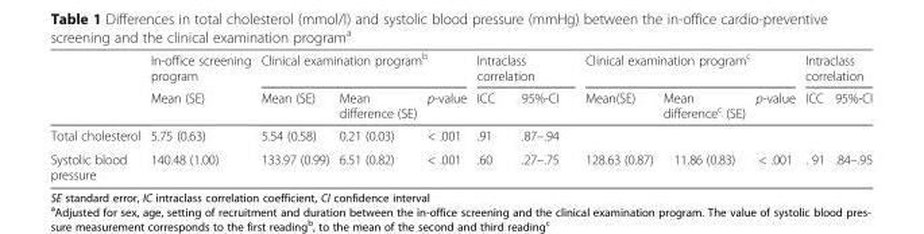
<table><thead><tr><td rowspan="2"></td><td rowspan="2">In-office screening program Mean (SE)</td><td colspan="3">Clinical examination program<sup>b</sup></td><td colspan="2">Intraclass correlation</td><td colspan="3">Clinical examination program<sup>c</sup></td><td colspan="2">Intraclass correlation</td></tr><tr><td>Mean (SE)</td><td>Mean difference (SE)</td><td>p-value</td><td>ICC</td><td>95%-CI</td><td>Mean(SE)</td><td>Mean difference<sup>c</sup> (SE)</td><td>p-value</td><td>ICC</td><td>95%-CI</td></tr></thead><tbody><tr><td>Total cholesterol</td><td>5.75 (0.63)</td><td>5.54 (0.58)</td><td>0.21 (0.03)</td><td>&lt; .001</td><td>.91</td><td>.87–.94</td><td></td><td></td><td></td><td></td><td></td></tr><tr><td>Systolic blood pressure</td><td>140.48 (1.00)</td><td>133.97 (0.99)</td><td>6.51 (0.82)</td><td>&lt; .001</td><td>.60</td><td>.27–.75</td><td>128.63 (0.87)</td><td>11.86 (0.83)</td><td>&lt; .001</td><td>. 91</td><td>.84–.95</td></tr></tbody></table>